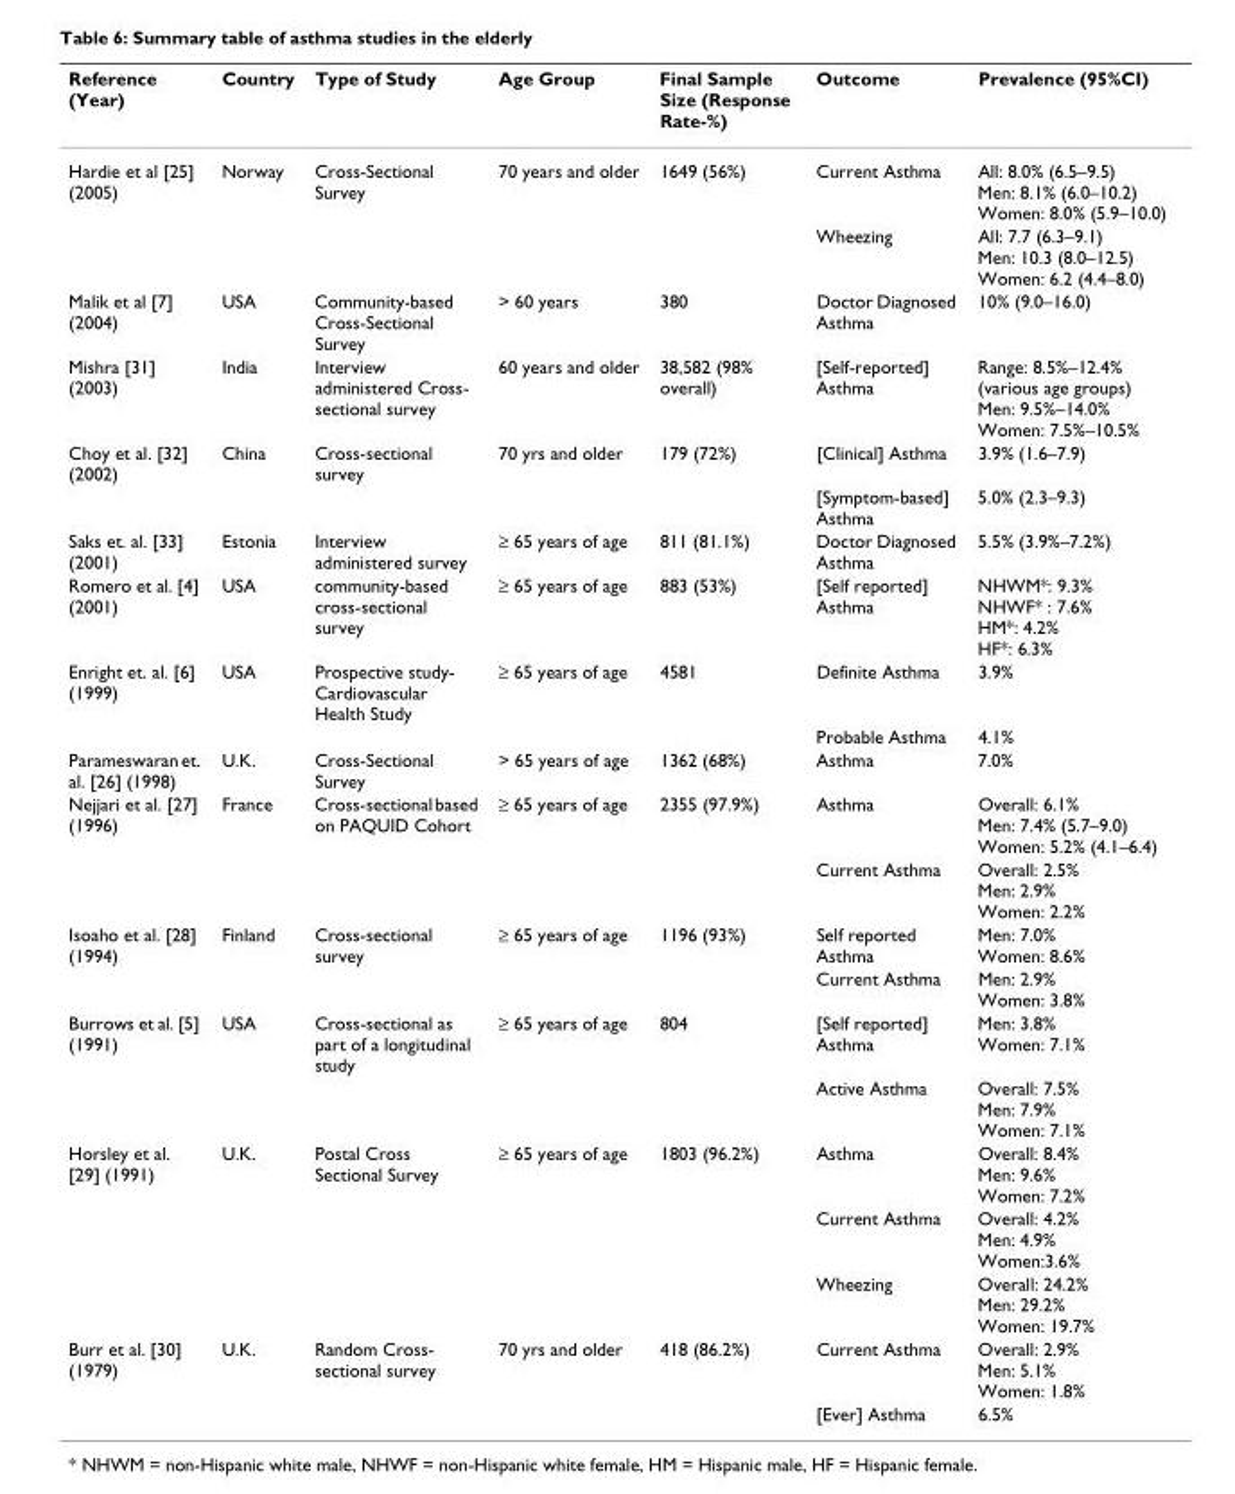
<table><thead><tr><td>Reference (Year)</td><td>Country</td><td>Type of Study</td><td>Age Group</td><td>Final Sample Size (Response Rate-%)</td><td>Outcome</td><td>Prevalence (95%CI)</td></tr></thead><tbody><tr><td rowspan="2">Hardie et al [25] (2005)</td><td>Norway</td><td>Cross-Sectional Survey</td><td>70 years and older</td><td>1649 (56%)</td><td>Current Asthma</td><td>All: 8.0% (6.5–9.5) Men: 8.1% (6.0–10.2) Women: 8.0% (5.9–10.0)</td></tr><tr><td></td><td></td><td></td><td></td><td>Wheezing</td><td>All: 7.7 (6.3–9.1) Men: 10.3 (8.0–12.5) Women: 6.2 (4.4–8.0)</td></tr><tr><td>Malik et al [7] (2004)</td><td>USA</td><td>Community-based Cross-Sectional Survey</td><td>&gt; 60 years</td><td>380</td><td>Doctor Diagnosed Asthma</td><td>10% (9.0–16.0)</td></tr><tr><td>Mishra [31] (2003)</td><td>India</td><td>Interview administered Cross- sectional survey</td><td>60 years and older</td><td>38,582 (98% overall)</td><td>[Self-reported] Asthma</td><td>Range: 8.5%–12.4% (various age groups) Men: 9.5%–14.0% Women: 7.5%–10.5%</td></tr><tr><td rowspan="2">Choy et al. [32] (2002)</td><td>China</td><td>Cross-sectional survey</td><td>70 yrs and older</td><td>179 (72%)</td><td>[Clinical] Asthma</td><td>3.9% (1.6–7.9)</td></tr><tr><td></td><td></td><td></td><td></td><td>[Symptom-based] Asthma</td><td>5.0% (2.3–9.3)</td></tr><tr><td>Saks et. al. [33] (2001)</td><td>Estonia</td><td>Interview administered survey</td><td>≥ 65 years of age</td><td>811 (81.1%)</td><td>Doctor Diagnosed Asthma</td><td>5.5% (3.9%–7.2%)</td></tr><tr><td>Romero et al. [4] (2001)</td><td>USA</td><td>community-based cross-sectional survey</td><td>≥ 65 years of age</td><td>883 (53%)</td><td>[Self reported] Asthma</td><td>NHWM*: 9.3% NHWF* : 7.6% HM*: 4.2% HF*: 6.3%</td></tr><tr><td rowspan="2">Enright et. al. [6] (1999)</td><td>USA</td><td>Prospective study- Cardiovascular Health Study</td><td>≥ 65 years of age</td><td>4581</td><td>Definite Asthma</td><td>3.9%</td></tr><tr><td></td><td></td><td></td><td></td><td>Probable Asthma</td><td>4.1%</td></tr><tr><td>Parameswaran et. al. [26] (1998)</td><td>U.K.</td><td>Cross-Sectional Survey</td><td>&gt; 65 years of age</td><td>1362 (68%)</td><td>Asthma</td><td>7.0%</td></tr><tr><td rowspan="2">Nejjari et al. [27] (1996)</td><td>France</td><td>Cross-sectional based on PAQUID Cohort</td><td>≥ 65 years of age</td><td>2355 (97.9%)</td><td>Asthma</td><td>Overall: 6.1% Men: 7.4% (5.7–9.0) Women: 5.2% (4.1–6.4)</td></tr><tr><td></td><td></td><td></td><td></td><td>Current Asthma</td><td>Overall: 2.5% Men: 2.9% Women: 2.2%</td></tr><tr><td rowspan="2">Isoaho et al. [28] (1994)</td><td>Finland</td><td>Cross-sectional survey</td><td>≥ 65 years of age</td><td>1196 (93%)</td><td>Self reported Asthma</td><td>Men: 7.0% Women: 8.6%</td></tr><tr><td></td><td></td><td></td><td></td><td>Current Asthma</td><td>Men: 2.9% Women: 3.8%</td></tr><tr><td rowspan="2">Burrows et al. [5] (1991)</td><td>USA</td><td>Cross-sectional as part of a longitudinal study</td><td>≥ 65 years of age</td><td>804</td><td>[Self reported] Asthma</td><td>Men: 3.8% Women: 7.1%</td></tr><tr><td></td><td></td><td></td><td></td><td>Active Asthma</td><td>Overall: 7.5% Men: 7.9% Women: 7.1%</td></tr><tr><td rowspan="3">Horsley et al. [29] (1991)</td><td>U.K.</td><td>Postal Cross Sectional Survey</td><td>≥ 65 years of age</td><td>1803 (96.2%)</td><td>Asthma</td><td>Overall: 8.4% Men: 9.6% Women: 7.2%</td></tr><tr><td></td><td></td><td></td><td></td><td>Current Asthma</td><td>Overall: 4.2% Men: 4.9% Women:3.6%</td></tr><tr><td></td><td></td><td></td><td></td><td>Wheezing</td><td>Overall: 24.2% Men: 29.2% Women: 19.7%</td></tr><tr><td rowspan="2">Burr et al. [30] (1979)</td><td>U.K.</td><td>Random Cross- sectional survey</td><td>70 yrs and older</td><td>418 (86.2%)</td><td>Current Asthma</td><td>Overall: 2.9% Men: 5.1% Women: 1.8%</td></tr><tr><td></td><td></td><td></td><td></td><td>[Ever] Asthma</td><td>6.5%</td></tr></tbody></table>